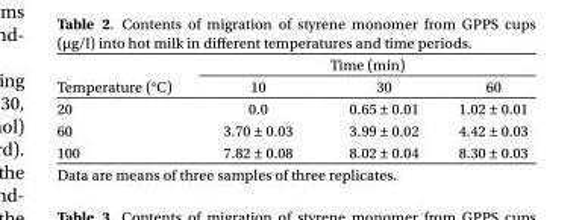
<table><thead><tr><td rowspan="2">Temperature (°C)</td><td colspan="3">Time (min)</td></tr><tr><td>10</td><td>30</td><td>60</td></tr></thead><tbody><tr><td>20</td><td>0.0</td><td>0.65 ± 0.01</td><td>1.02 ± 0.01</td></tr><tr><td>60</td><td>3.70 ± 0.03</td><td>3.99 ± 0.02</td><td>4.42 ± 0.03</td></tr><tr><td>100</td><td>7.82 ± 0.08</td><td>8.02 ± 0.04</td><td>8.30 ± 0.03</td></tr></tbody></table>